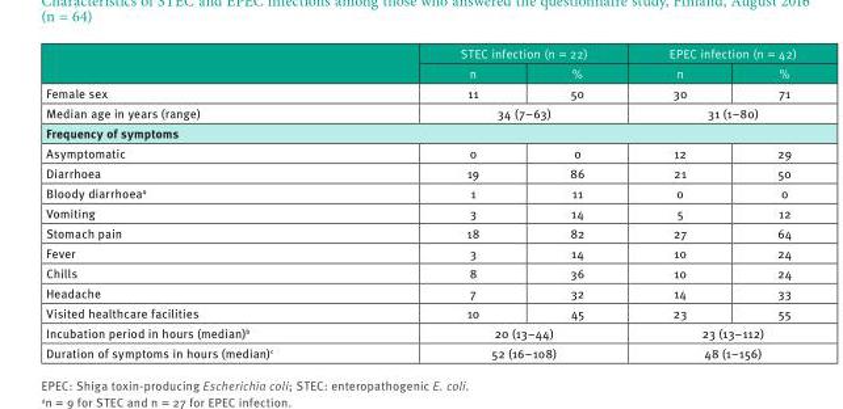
<table><thead><tr><td rowspan="2"></td><td colspan="2">STEC infection (n = 22)</td><td colspan="2">EPEC infection (n = 42)</td></tr><tr><td>n</td><td>%</td><td>n</td><td>%</td></tr></thead><tbody><tr><td>Female sex</td><td>11</td><td>50</td><td>30</td><td>71</td></tr><tr><td>Median age in years (range)</td><td colspan="2">34 (7–63)</td><td colspan="2">31 (1–80)</td></tr><tr><td colspan="5">Frequency of symptoms</td></tr><tr><td>Asymptomatic</td><td>0</td><td>0</td><td>12</td><td>29</td></tr><tr><td>Diarrhoea</td><td>19</td><td>86</td><td>21</td><td>50</td></tr><tr><td>Bloody diarrhoea<sup>a</sup></td><td>1</td><td>11</td><td>0</td><td>0</td></tr><tr><td>Vomiting</td><td>3</td><td>14</td><td>5</td><td>12</td></tr><tr><td>Stomach pain</td><td>18</td><td>82</td><td>27</td><td>64</td></tr><tr><td>Fever</td><td>3</td><td>14</td><td>10</td><td>24</td></tr><tr><td>Chills</td><td>8</td><td>36</td><td>10</td><td>24</td></tr><tr><td>Headache</td><td>7</td><td>32</td><td>14</td><td>33</td></tr><tr><td>Visited healthcare facilities</td><td>10</td><td>45</td><td>23</td><td>55</td></tr><tr><td>Incubation period in hours (median)<sup>b</sup></td><td colspan="2">20 (13–44)</td><td colspan="2">23 (13–112)</td></tr><tr><td>Duration of symptoms in hours (median)<sup>c</sup></td><td colspan="2">52 (16–108)</td><td colspan="2">48 (1–156)</td></tr></tbody></table>